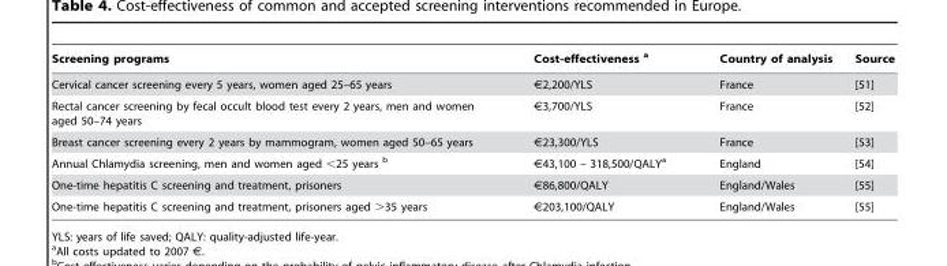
<table><thead><tr><td>Screening programs</td><td>Cost-effectiveness a</td><td>Country of analysis</td><td>Source</td></tr></thead><tbody><tr><td>Cervical cancer screening every 5 years, women aged 25–65 years</td><td>€2,200/YLS</td><td>France</td><td>[51]</td></tr><tr><td>Rectal cancer screening by fecal occult blood test every 2 years, men and women aged 50–74 years</td><td>€3,700/YLS</td><td>France</td><td>[52]</td></tr><tr><td>Breast cancer screening every 2 years by mammogram, women aged 50–65 years</td><td>€23,300/YLS</td><td>France</td><td>[53]</td></tr><tr><td>Annual Chlamydia screening, men and women aged &lt;25 years b</td><td>€43,100 – 318,500/QALY<sup>a</sup></td><td>England</td><td>[54]</td></tr><tr><td>One-time hepatitis C screening and treatment, prisoners</td><td>€86,800/QALY</td><td>England/Wales</td><td>[55]</td></tr><tr><td>One-time hepatitis C screening and treatment, prisoners aged &gt;35 years</td><td>€203,100/QALY</td><td>England/Wales</td><td>[55]</td></tr></tbody></table>